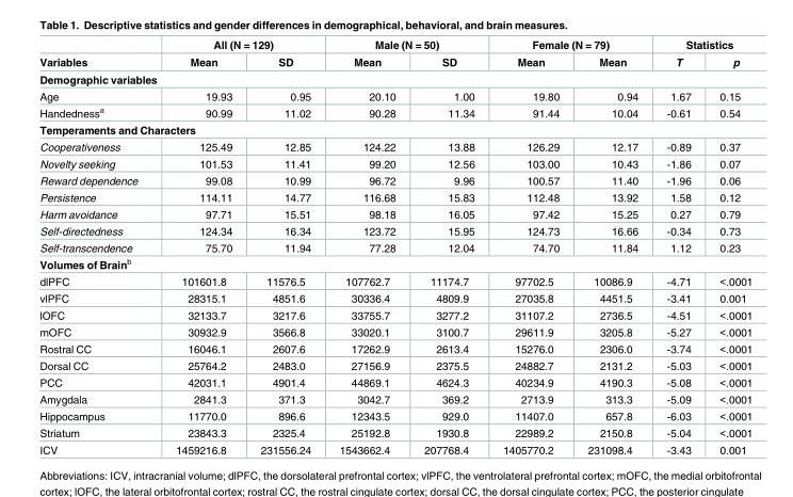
<table><thead><tr><td rowspan="2">Variables</td><td colspan="2">All (N = 129)</td><td colspan="2">Male (N = 50)</td><td colspan="2">Female (N = 79)</td><td colspan="2">Statistics</td></tr><tr><td>Mean</td><td>SD</td><td>Mean</td><td>SD</td><td>Mean</td><td>Mean</td><td>T</td><td>p</td></tr></thead><tbody><tr><td colspan="9">Demographic variables</td></tr><tr><td>Age</td><td>19.93</td><td>0.95</td><td>20.10</td><td>1.00</td><td>19.80</td><td>0.94</td><td>1.67</td><td>0.15</td></tr><tr><td>Handedness<sup>a</sup></td><td>90.99</td><td>11.02</td><td>90.28</td><td>11.34</td><td>91.44</td><td>10.04</td><td>-0.61</td><td>0.54</td></tr><tr><td colspan="9">Temperaments and Characters</td></tr><tr><td>Cooperativeness</td><td>125.49</td><td>12.85</td><td>124.22</td><td>13.88</td><td>126.29</td><td>12.17</td><td>-0.89</td><td>0.37</td></tr><tr><td>Novelty seeking</td><td>101.53</td><td>11.41</td><td>99.20</td><td>12.56</td><td>103.00</td><td>10.43</td><td>-1.86</td><td>0.07</td></tr><tr><td>Reward dependence</td><td>99.08</td><td>10.99</td><td>96.72</td><td>9.96</td><td>100.57</td><td>11.40</td><td>-1.96</td><td>0.06</td></tr><tr><td>Persistence</td><td>114.11</td><td>14.77</td><td>116.68</td><td>15.83</td><td>112.48</td><td>13.92</td><td>1.58</td><td>0.12</td></tr><tr><td>Harm avoidance</td><td>97.71</td><td>15.51</td><td>98.18</td><td>16.05</td><td>97.42</td><td>15.25</td><td>0.27</td><td>0.79</td></tr><tr><td>Self-directedness</td><td>124.34</td><td>16.34</td><td>123.72</td><td>15.95</td><td>124.73</td><td>16.66</td><td>-0.34</td><td>0.73</td></tr><tr><td>Self-transcendence</td><td>75.70</td><td>11.94</td><td>77.28</td><td>12.04</td><td>74.70</td><td>11.84</td><td>1.12</td><td>0.23</td></tr><tr><td colspan="9">Volumes of Brain<sup>b</sup></td></tr><tr><td>dlPFC</td><td>101601.8</td><td>11576.5</td><td>107762.7</td><td>11174.7</td><td>97702.5</td><td>10086.9</td><td>-4.71</td><td>&lt;.0001</td></tr><tr><td>vlPFC</td><td>28315.1</td><td>4851.6</td><td>30336.4</td><td>4809.9</td><td>27035.8</td><td>4451.5</td><td>-3.41</td><td>0.001</td></tr><tr><td>lOFC</td><td>32133.7</td><td>3217.6</td><td>33755.7</td><td>3277.2</td><td>31107.2</td><td>2736.5</td><td>-4.51</td><td>&lt;.0001</td></tr><tr><td>mOFC</td><td>30932.9</td><td>3566.8</td><td>33020.1</td><td>3100.7</td><td>29611.9</td><td>3205.8</td><td>-5.27</td><td>&lt;.0001</td></tr><tr><td>Rostral CC</td><td>16046.1</td><td>2607.6</td><td>17262.9</td><td>2613.4</td><td>15276.0</td><td>2306.0</td><td>-3.74</td><td>&lt;.0001</td></tr><tr><td>Dorsal CC</td><td>25764.2</td><td>2483.0</td><td>27156.9</td><td>2375.5</td><td>24882.7</td><td>2131.2</td><td>-5.03</td><td>&lt;.0001</td></tr><tr><td>PCC</td><td>42031.1</td><td>4901.4</td><td>44869.1</td><td>4624.3</td><td>40234.9</td><td>4190.3</td><td>-5.08</td><td>&lt;.0001</td></tr><tr><td>Amygdala</td><td>2841.3</td><td>371.3</td><td>3042.7</td><td>369.2</td><td>2713.9</td><td>313.3</td><td>-5.09</td><td>&lt;.0001</td></tr><tr><td>Hippocampus</td><td>11770.0</td><td>896.6</td><td>12343.5</td><td>929.0</td><td>11407.0</td><td>657.8</td><td>-6.03</td><td>&lt;.0001</td></tr><tr><td>Striatum</td><td>23843.3</td><td>2325.4</td><td>25192.8</td><td>1930.8</td><td>22989.2</td><td>2150.8</td><td>-5.04</td><td>&lt;.0001</td></tr><tr><td>ICV</td><td>1459216.8</td><td>231556.24</td><td>1543662.4</td><td>207768.4</td><td>1405770.2</td><td>231098.4</td><td>-3.43</td><td>0.001</td></tr></tbody></table>